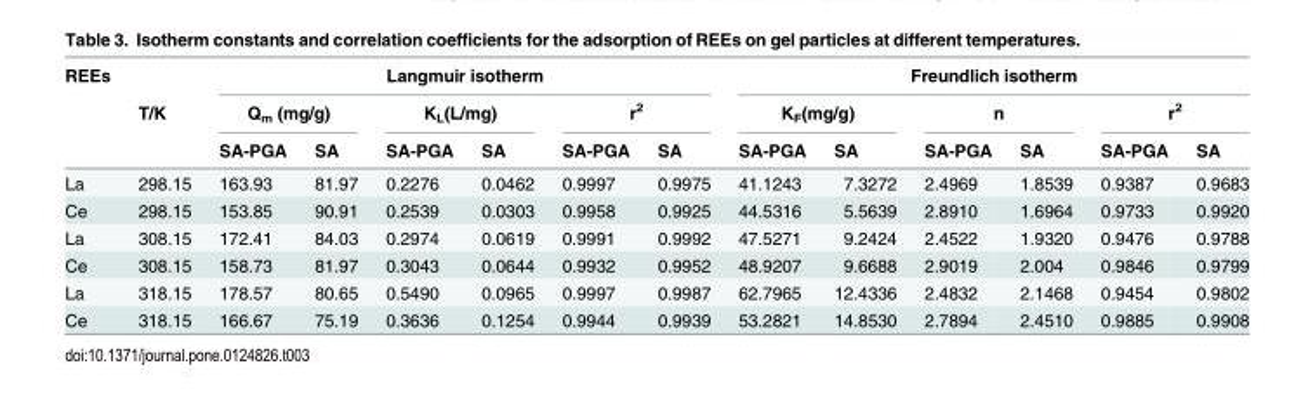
<table><thead><tr><td rowspan="3">REEs</td><td rowspan="3">T/K</td><td colspan="6">Langmuir isotherm</td><td colspan="6">Freundlich isotherm</td></tr><tr><td colspan="2">Q<sub>m</sub> (mg/g)</td><td colspan="2">K<sub>L</sub>(L/mg)</td><td colspan="2">r<sup>2</sup></td><td colspan="2">K<sub>F</sub>(mg/g)</td><td colspan="2">n</td><td colspan="2">r<sup>2</sup></td></tr><tr><td>SA-PGA</td><td>SA</td><td>SA-PGA</td><td>SA</td><td>SA-PGA</td><td>SA</td><td>SA-PGA</td><td>SA</td><td>SA-PGA</td><td>SA</td><td>SA-PGA</td><td>SA</td></tr></thead><tbody><tr><td>La</td><td>298.15</td><td>163.93</td><td>81.97</td><td>0.2276</td><td>0.0462</td><td>0.9997</td><td>0.9975</td><td>41.1243</td><td>7.3272</td><td>2.4969</td><td>1.8539</td><td>0.9387</td><td>0.9683</td></tr><tr><td>Ce</td><td>298.15</td><td>153.85</td><td>90.91</td><td>0.2539</td><td>0.0303</td><td>0.9958</td><td>0.9925</td><td>44.5316</td><td>5.5639</td><td>2.8910</td><td>1.6964</td><td>0.9733</td><td>0.9920</td></tr><tr><td>La</td><td>308.15</td><td>172.41</td><td>84.03</td><td>0.2974</td><td>0.0619</td><td>0.9991</td><td>0.9992</td><td>47.5271</td><td>9.2424</td><td>2.4522</td><td>1.9320</td><td>0.9476</td><td>0.9788</td></tr><tr><td>Ce</td><td>308.15</td><td>158.73</td><td>81.97</td><td>0.3043</td><td>0.0644</td><td>0.9932</td><td>0.9952</td><td>48.9207</td><td>9.6688</td><td>2.9019</td><td>2.004</td><td>0.9846</td><td>0.9799</td></tr><tr><td>La</td><td>318.15</td><td>178.57</td><td>80.65</td><td>0.5490</td><td>0.0965</td><td>0.9997</td><td>0.9987</td><td>62.7965</td><td>12.4336</td><td>2.4832</td><td>2.1468</td><td>0.9454</td><td>0.9802</td></tr><tr><td>Ce</td><td>318.15</td><td>166.67</td><td>75.19</td><td>0.3636</td><td>0.1254</td><td>0.9944</td><td>0.9939</td><td>53.2821</td><td>14.8530</td><td>2.7894</td><td>2.4510</td><td>0.9885</td><td>0.9908</td></tr></tbody></table>